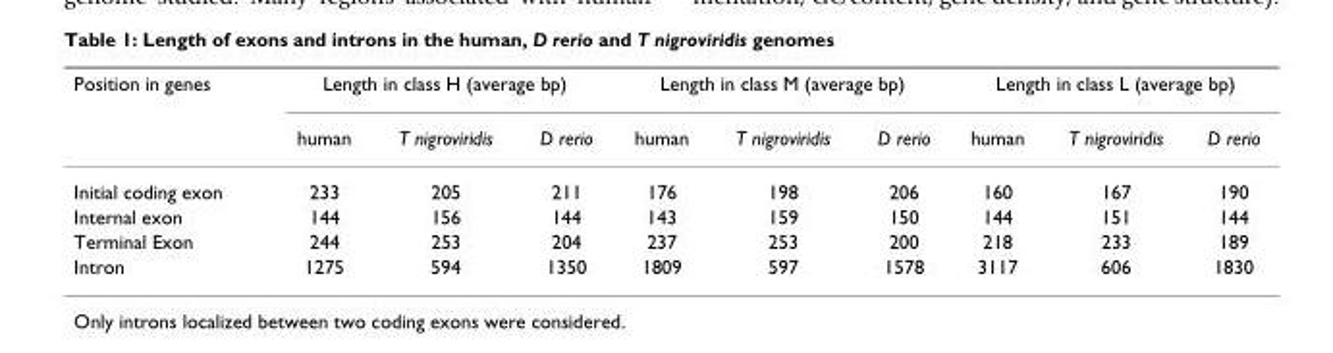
<table><thead><tr><td rowspan="2">Position in genes</td><td colspan="3">Length in class H (average bp)</td><td colspan="3">Length in class M (average bp)</td><td colspan="3">Length in class L (average bp)</td></tr><tr><td>human</td><td>T nigroviridis</td><td>D rerio</td><td>human</td><td>T nigroviridis</td><td>D rerio</td><td>human</td><td>T nigroviridis</td><td>D rerio</td></tr></thead><tbody><tr><td>Initial coding exon</td><td>233</td><td>205</td><td>211</td><td>176</td><td>198</td><td>206</td><td>160</td><td>167</td><td>190</td></tr><tr><td>Internal exon</td><td>144</td><td>156</td><td>144</td><td>143</td><td>159</td><td>150</td><td>144</td><td>151</td><td>144</td></tr><tr><td>Terminal Exon</td><td>244</td><td>253</td><td>204</td><td>237</td><td>253</td><td>200</td><td>218</td><td>233</td><td>189</td></tr><tr><td>Intron</td><td>1275</td><td>594</td><td>1350</td><td>1809</td><td>597</td><td>1578</td><td>3117</td><td>606</td><td>1830</td></tr></tbody></table>